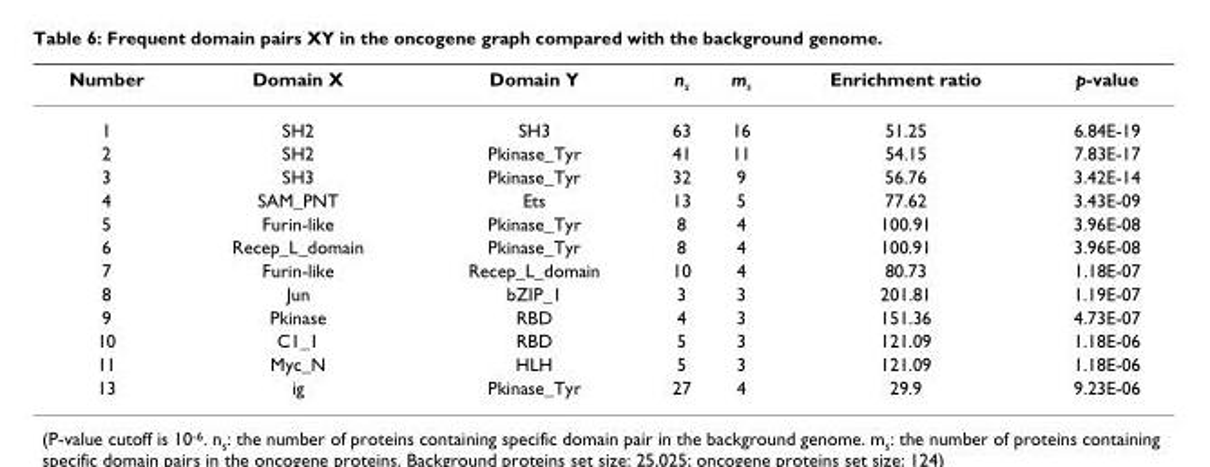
<table><thead><tr><td>Number</td><td>Domain X</td><td>Domain Y</td><td>n<sub>s</sub></td><td>m<sub>s</sub></td><td>Enrichment ratio</td><td>p-value</td></tr></thead><tbody><tr><td>1</td><td>SH2</td><td>SH3</td><td>63</td><td>16</td><td>51.25</td><td>6.84E-19</td></tr><tr><td>2</td><td>SH2</td><td>Pkinase_Tyr</td><td>41</td><td>11</td><td>54.15</td><td>7.83E-17</td></tr><tr><td>3</td><td>SH3</td><td>Pkinase_Tyr</td><td>32</td><td>9</td><td>56.76</td><td>3.42E-14</td></tr><tr><td>4</td><td>SAM_PNT</td><td>Ets</td><td>13</td><td>5</td><td>77.62</td><td>3.43E-09</td></tr><tr><td>5</td><td>Furin-like</td><td>Pkinase_Tyr</td><td>8</td><td>4</td><td>100.91</td><td>3.96E-08</td></tr><tr><td>6</td><td>Recep_L_domain</td><td>Pkinase_Tyr</td><td>8</td><td>4</td><td>100.91</td><td>3.96E-08</td></tr><tr><td>7</td><td>Furin-like</td><td>Recep_L_domain</td><td>10</td><td>4</td><td>80.73</td><td>1.18E-07</td></tr><tr><td>8</td><td>Jun</td><td>bZIP_1</td><td>3</td><td>3</td><td>201.81</td><td>1.19E-07</td></tr><tr><td>9</td><td>Pkinase</td><td>RBD</td><td>4</td><td>3</td><td>151.36</td><td>4.73E-07</td></tr><tr><td>10</td><td>C1_1</td><td>RBD</td><td>5</td><td>3</td><td>121.09</td><td>1.18E-06</td></tr><tr><td>11</td><td>Myc_N</td><td>HLH</td><td>5</td><td>3</td><td>121.09</td><td>1.18E-06</td></tr><tr><td>13</td><td>ig</td><td>Pkinase_Tyr</td><td>27</td><td>4</td><td>29.9</td><td>9.23E-06</td></tr></tbody></table>